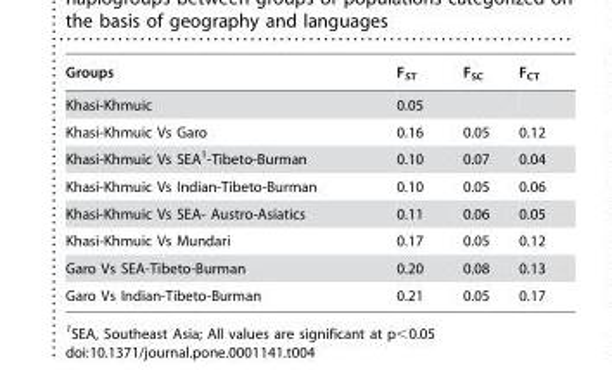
<table><thead><tr><td>Groups</td><td>F<sub>ST</sub></td><td>F<sub>SC</sub></td><td>F<sub>CT</sub></td></tr></thead><tbody><tr><td>Khasi-Khmuic</td><td>0.05</td><td></td><td></td></tr><tr><td>Khasi-Khmuic Vs Garo</td><td>0.16</td><td>0.05</td><td>0.12</td></tr><tr><td>Khasi-Khmuic Vs SEA<sup>1</sup>-Tibeto-Burman</td><td>0.10</td><td>0.07</td><td>0.04</td></tr><tr><td>Khasi-Khmuic Vs Indian-Tibeto-Burman</td><td>0.10</td><td>0.05</td><td>0.06</td></tr><tr><td>Khasi-Khmuic Vs SEA- Austro-Asiatics</td><td>0.11</td><td>0.06</td><td>0.05</td></tr><tr><td>Khasi-Khmuic Vs Mundari</td><td>0.17</td><td>0.05</td><td>0.12</td></tr><tr><td>Garo Vs SEA-Tibeto-Burman</td><td>0.20</td><td>0.08</td><td>0.13</td></tr><tr><td>Garo Vs Indian-Tibeto-Burman</td><td>0.21</td><td>0.05</td><td>0.17</td></tr></tbody></table>